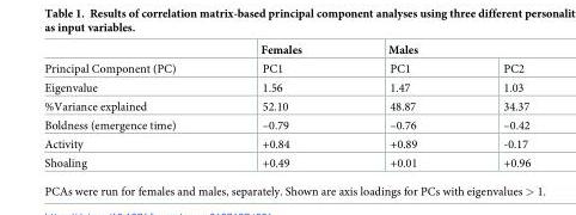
<table><thead><tr><td rowspan="2">Principal Component (PC)</td><td rowspan="2">Females PC1</td><td colspan="2">Males</td></tr><tr><td>PC1</td><td>PC2</td></tr></thead><tbody><tr><td>Eigenvalue</td><td>1.56</td><td>1.47</td><td>1.03</td></tr><tr><td>%Variance explained</td><td>52.10</td><td>48.87</td><td>34.37</td></tr><tr><td>Boldness (emergence time)</td><td>–0.79</td><td>–0.76</td><td>–0.42</td></tr><tr><td>Activity</td><td>+0.84</td><td>+0.89</td><td>-0.17</td></tr><tr><td>Shoaling</td><td>+0.49</td><td>+0.01</td><td>+0.96</td></tr></tbody></table>